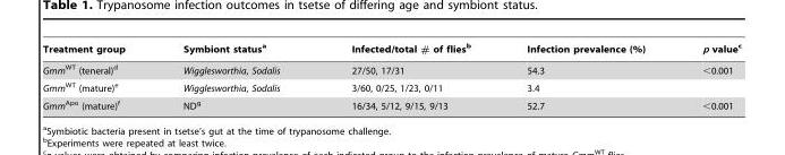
<table><thead><tr><td>Treatment group</td><td>Symbiont status<sup>a</sup></td><td>Infected/total # of flies<sup>b</sup></td><td>Infection prevalence (%)</td><td>p value<sup>c</sup></td></tr></thead><tbody><tr><td>Gmm<sup>WT</sup> (teneral)<sup>d</sup></td><td>Wigglesworthia, Sodalis</td><td>27/50, 17/31</td><td>54.3</td><td>&lt;0.001</td></tr><tr><td>Gmm<sup>WT</sup> (mature)<sup>e</sup></td><td>Wigglesworthia, Sodalis</td><td>3/60, 0/25, 1/23, 0/11</td><td>3.4</td><td></td></tr><tr><td>Gmm<sup>Apo</sup> (mature)<sup>f</sup></td><td>ND<sup>g</sup></td><td>16/34, 5/12, 9/15, 9/13</td><td>52.7</td><td>&lt;0.001</td></tr></tbody></table>